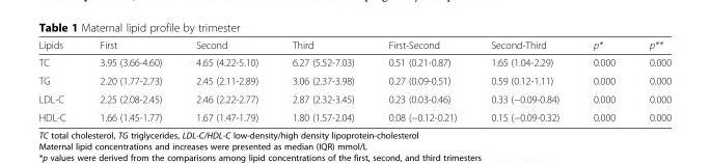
<table><thead><tr><td>Lipids</td><td>First</td><td>Second</td><td>Third</td><td>First-Second</td><td>Second-Third</td><td>p*</td><td>p**</td></tr></thead><tbody><tr><td>TC</td><td>3.95 (3.66-4.60)</td><td>4.65 (4.22-5.10)</td><td>6.27 (5.52-7.03)</td><td>0.51 (0.21-0.87)</td><td>1.65 (1.04-2.29)</td><td>0.000</td><td>0.000</td></tr><tr><td>TG</td><td>2.20 (1.77-2.73)</td><td>2.45 (2.11-2.89)</td><td>3.06 (2.37-3.98)</td><td>0.27 (0.09-0.51)</td><td>0.59 (0.12-1.11)</td><td>0.000</td><td>0.000</td></tr><tr><td>LDL-C</td><td>2.25 (2.08-2.45)</td><td>2.46 (2.22-2.77)</td><td>2.87 (2.32-3.45)</td><td>0.23 (0.03-0.46)</td><td>0.33 (−0.09-0.84)</td><td>0.000</td><td>0.000</td></tr><tr><td>HDL-C</td><td>1.66 (1.45-1.77)</td><td>1.67 (1.47-1.79)</td><td>1.80 (1.57-2.04)</td><td>0.08 (−0.12-0.21)</td><td>0.15 (−0.09-0.32)</td><td>0.000</td><td>0.000</td></tr></tbody></table>